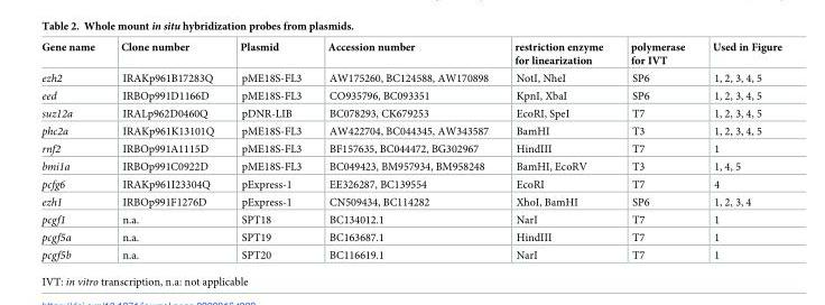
<table><thead><tr><td>Gene name</td><td>Clone number</td><td>Plasmid</td><td>Accession number</td><td>restriction enzyme for linearization</td><td>polymerase for IVT</td><td>Used in Figure</td></tr></thead><tbody><tr><td>ezh2</td><td>IRAKp961B17283Q</td><td>pME18S-FL3</td><td>AW175260, BC124588, AW170898</td><td>NotI, NheI</td><td>SP6</td><td>1, 2, 3, 4, 5</td></tr><tr><td>eed</td><td>IRBOp991D1166D</td><td>pME18S-FL3</td><td>CO935796, BC093351</td><td>KpnI, XbaI</td><td>SP6</td><td>1, 2, 3, 4, 5</td></tr><tr><td>suz12a</td><td>IRALp962D0460Q</td><td>pDNR-LIB</td><td>BC078293, CK679253</td><td>EcoRI, SpeI</td><td>T7</td><td>1, 2, 3, 4, 5</td></tr><tr><td>phc2a</td><td>IRAKp961K13101Q</td><td>pME18S-FL3</td><td>AW422704, BC044345, AW343587</td><td>BamHI</td><td>T3</td><td>1, 2, 3, 4, 5</td></tr><tr><td>rnf2</td><td>IRBOp991A1115D</td><td>pME18S-FL3</td><td>BF157635, BC044472, BG302967</td><td>HindIII</td><td>T7</td><td>1</td></tr><tr><td>bmi1a</td><td>IRBOp991C0922D</td><td>pME18S-FL3</td><td>BC049423, BM957934, BM958248</td><td>BamHI, EcoRV</td><td>T3</td><td>1, 4, 5</td></tr><tr><td>pcfg6</td><td>IRAKp961I23304Q</td><td>pExpress-1</td><td>EE326287, BC139554</td><td>EcoRI</td><td>T7</td><td>4</td></tr><tr><td>ezh1</td><td>IRBOp991F1276D</td><td>pExpress-1</td><td>CN509434, BC114282</td><td>XhoI, BamHI</td><td>SP6</td><td>1, 2, 3, 4</td></tr><tr><td>pcgf1</td><td>n.a.</td><td>SPT18</td><td>BC134012.1</td><td>NarI</td><td>T7</td><td>1</td></tr><tr><td>pcgf5a</td><td>n.a.</td><td>SPT19</td><td>BC163687.1</td><td>HindIII</td><td>T7</td><td>1</td></tr><tr><td>pcgf5b</td><td>n.a.</td><td>SPT20</td><td>BC116619.1</td><td>NarI</td><td>T7</td><td>1</td></tr></tbody></table>